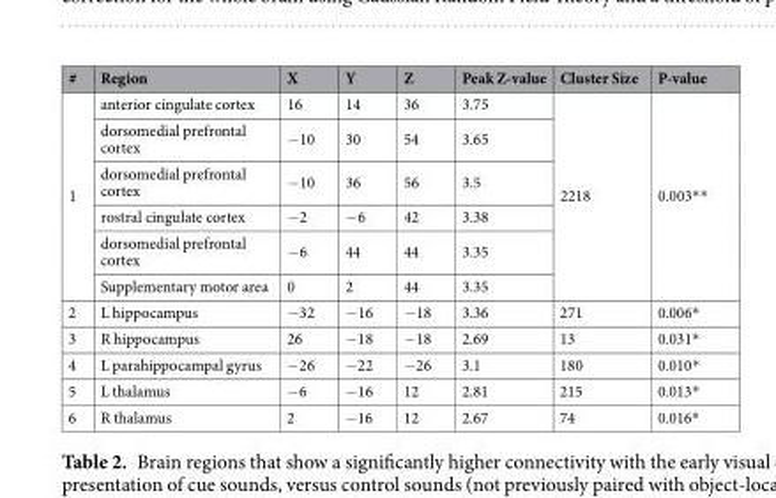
<table><thead><tr><td>#</td><td>Region</td><td>X</td><td>Y</td><td>Z</td><td>Peak Z-value</td><td>Cluster Size</td><td>P-value</td></tr></thead><tbody><tr><td rowspan="6">1</td><td>anterior cingulate cortex</td><td>16</td><td>14</td><td>36</td><td>3.75</td><td rowspan="6">2218</td><td rowspan="6">0.003**</td></tr><tr><td>dorsomedial prefrontal cortex</td><td>−10</td><td>30</td><td>54</td><td>3.65</td></tr><tr><td>dorsomedial prefrontal cortex</td><td>−10</td><td>36</td><td>56</td><td>3.5</td></tr><tr><td>rostral cingulate cortex</td><td>−2</td><td>−6</td><td>42</td><td>3.38</td></tr><tr><td>dorsomedial prefrontal cortex</td><td>−6</td><td>44</td><td>44</td><td>3.35</td></tr><tr><td>Supplementary motor area</td><td>0</td><td>2</td><td>44</td><td>3.35</td></tr><tr><td>2</td><td>L hippocampus</td><td>−32</td><td>−16</td><td>−18</td><td>3.36</td><td>271</td><td>0.006*</td></tr><tr><td>3</td><td>R hippocampus</td><td>26</td><td>−18</td><td>−18</td><td>2.69</td><td>13</td><td>0.031*</td></tr><tr><td>4</td><td>L parahippocampal gyrus</td><td>−26</td><td>−22</td><td>−26</td><td>3.1</td><td>180</td><td>0.010*</td></tr><tr><td>5</td><td>L thalamus</td><td>−6</td><td>−16</td><td>12</td><td>2.81</td><td>215</td><td>0.013*</td></tr><tr><td>6</td><td>R thalamus</td><td>2</td><td>−16</td><td>12</td><td>2.67</td><td>74</td><td>0.016*</td></tr></tbody></table>